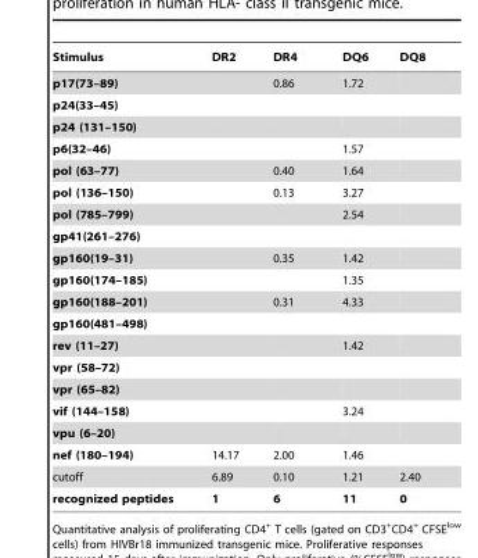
<table><thead><tr><td>Stimulus</td><td>DR2</td><td>DR4</td><td>DQ6</td><td>DQ8</td></tr></thead><tbody><tr><td>p17(73–89)</td><td></td><td>0.86</td><td>1.72</td><td></td></tr><tr><td colspan="5">p24(33–45)</td></tr><tr><td colspan="5">p24 (131–150)</td></tr><tr><td>p6(32–46)</td><td></td><td></td><td>1.57</td><td></td></tr><tr><td>pol (63–77)</td><td></td><td>0.40</td><td>1.64</td><td></td></tr><tr><td>pol (136–150)</td><td></td><td>0.13</td><td>3.27</td><td></td></tr><tr><td>pol (785–799)</td><td></td><td></td><td>2.54</td><td></td></tr><tr><td colspan="5">gp41(261–276)</td></tr><tr><td>gp160(19–31)</td><td></td><td>0.35</td><td>1.42</td><td></td></tr><tr><td>gp160(174–185)</td><td></td><td></td><td>1.35</td><td></td></tr><tr><td>gp160(188–201)</td><td></td><td>0.31</td><td>4.33</td><td></td></tr><tr><td colspan="5">gp160(481–498)</td></tr><tr><td>rev (11–27)</td><td></td><td></td><td>1.42</td><td></td></tr><tr><td colspan="5">vpr (58–72)</td></tr><tr><td colspan="5">vpr (65–82)</td></tr><tr><td>vif (144–158)</td><td></td><td></td><td>3.24</td><td></td></tr><tr><td colspan="5">vpu (6–20)</td></tr><tr><td>nef (180–194)</td><td>14.17</td><td>2.00</td><td>1.46</td><td></td></tr><tr><td>cutoff</td><td>6.89</td><td>0.10</td><td>1.21</td><td>2.40</td></tr><tr><td>recognized peptides</td><td>1</td><td>6</td><td>11</td><td>0</td></tr></tbody></table>